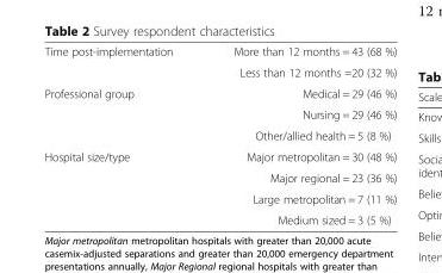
<table><tbody><tr><td rowspan="2">Time post-implementation</td><td>More than 12 months = 43 (68 %)</td></tr><tr><td>Less than 12 months =20 (32 %)</td></tr><tr><td rowspan="3">Professional group</td><td>Medical = 29 (46 %)</td></tr><tr><td>Nursing = 29 (46 %)</td></tr><tr><td>Other/allied health = 5 (8 %)</td></tr><tr><td rowspan="4">Hospital size/type</td><td>Major metropolitan = 30 (48 %)</td></tr><tr><td>Major regional = 23 (36 %)</td></tr><tr><td>Large metropolitan = 7 (11 %)</td></tr><tr><td>Medium sized = 3 (5 %)</td></tr></tbody></table>